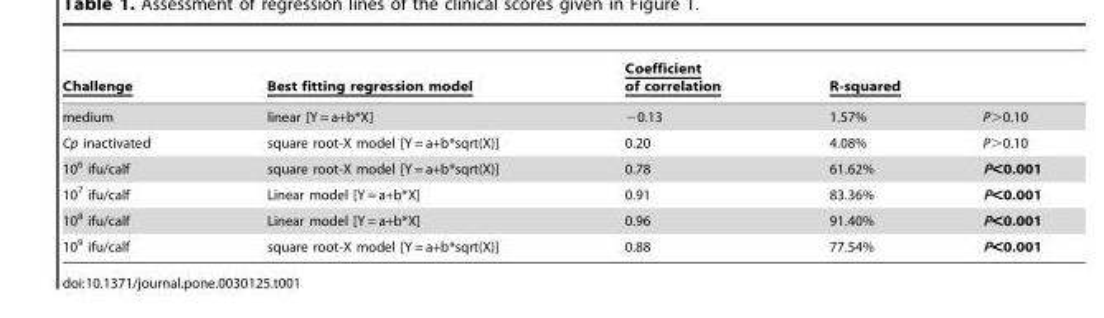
<table><thead><tr><td>Challenge</td><td>Best fitting regression model</td><td>Coefficient of correlation</td><td>R-squared</td><td></td></tr></thead><tbody><tr><td>medium</td><td>linear [Y = a+b*X]</td><td>−0.13</td><td>1.57%</td><td>P&gt;0.10</td></tr><tr><td>Cp inactivated</td><td>square root-X model [Y = a+b*sqrt(X)]</td><td>0.20</td><td>4.08%</td><td>P&gt;0.10</td></tr><tr><td>10<sup>6</sup> ifu/calf</td><td>square root-X model [Y = a+b*sqrt(X)]</td><td>0.78</td><td>61.62%</td><td>P&lt;0.001</td></tr><tr><td>10<sup>7</sup> ifu/calf</td><td>Linear model [Y = a+b*X]</td><td>0.91</td><td>83.36%</td><td>P&lt;0.001</td></tr><tr><td>10<sup>8</sup> ifu/calf</td><td>Linear model [Y = a+b*X]</td><td>0.96</td><td>91.40%</td><td>P&lt;0.001</td></tr><tr><td>10<sup>9</sup> ifu/calf</td><td>square root-X model [Y = a+b*sqrt(X)]</td><td>0.88</td><td>77.54%</td><td>P&lt;0.001</td></tr></tbody></table>